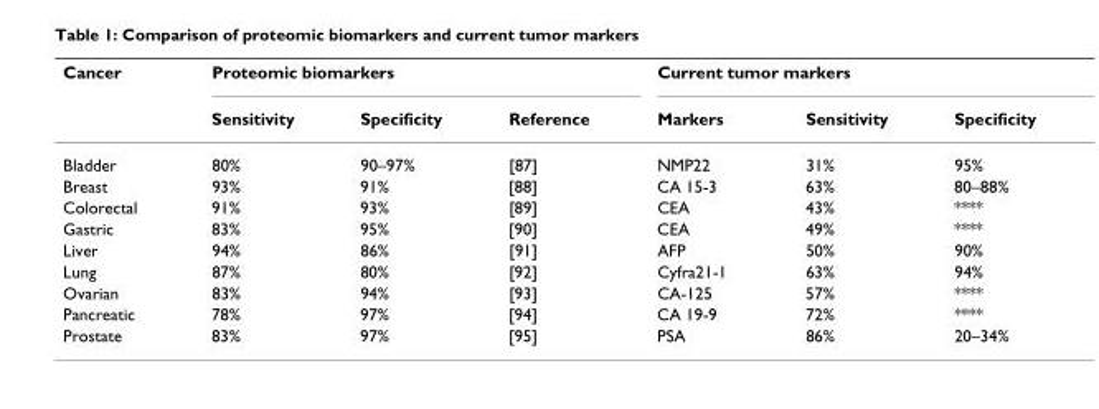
<table><thead><tr><td rowspan="2">Cancer</td><td colspan="3">Proteomic biomarkers</td><td colspan="3">Current tumor markers</td></tr><tr><td>Sensitivity</td><td>Specificity</td><td>Reference</td><td>Markers</td><td>Sensitivity</td><td>Specificity</td></tr></thead><tbody><tr><td>Bladder</td><td>80%</td><td>90–97%</td><td>[87]</td><td>NMP22</td><td>31%</td><td>95%</td></tr><tr><td>Breast</td><td>93%</td><td>91%</td><td>[88]</td><td>CA 15-3</td><td>63%</td><td>80–88%</td></tr><tr><td>Colorectal</td><td>91%</td><td>93%</td><td>[89]</td><td>CEA</td><td>43%</td><td>****</td></tr><tr><td>Gastric</td><td>83%</td><td>95%</td><td>[90]</td><td>CEA</td><td>49%</td><td>****</td></tr><tr><td>Liver</td><td>94%</td><td>86%</td><td>[91]</td><td>AFP</td><td>50%</td><td>90%</td></tr><tr><td>Lung</td><td>87%</td><td>80%</td><td>[92]</td><td>Cyfra21-1</td><td>63%</td><td>94%</td></tr><tr><td>Ovarian</td><td>83%</td><td>94%</td><td>[93]</td><td>CA-125</td><td>57%</td><td>****</td></tr><tr><td>Pancreatic</td><td>78%</td><td>97%</td><td>[94]</td><td>CA 19-9</td><td>72%</td><td>****</td></tr><tr><td>Prostate</td><td>83%</td><td>97%</td><td>[95]</td><td>PSA</td><td>86%</td><td>20–34%</td></tr></tbody></table>